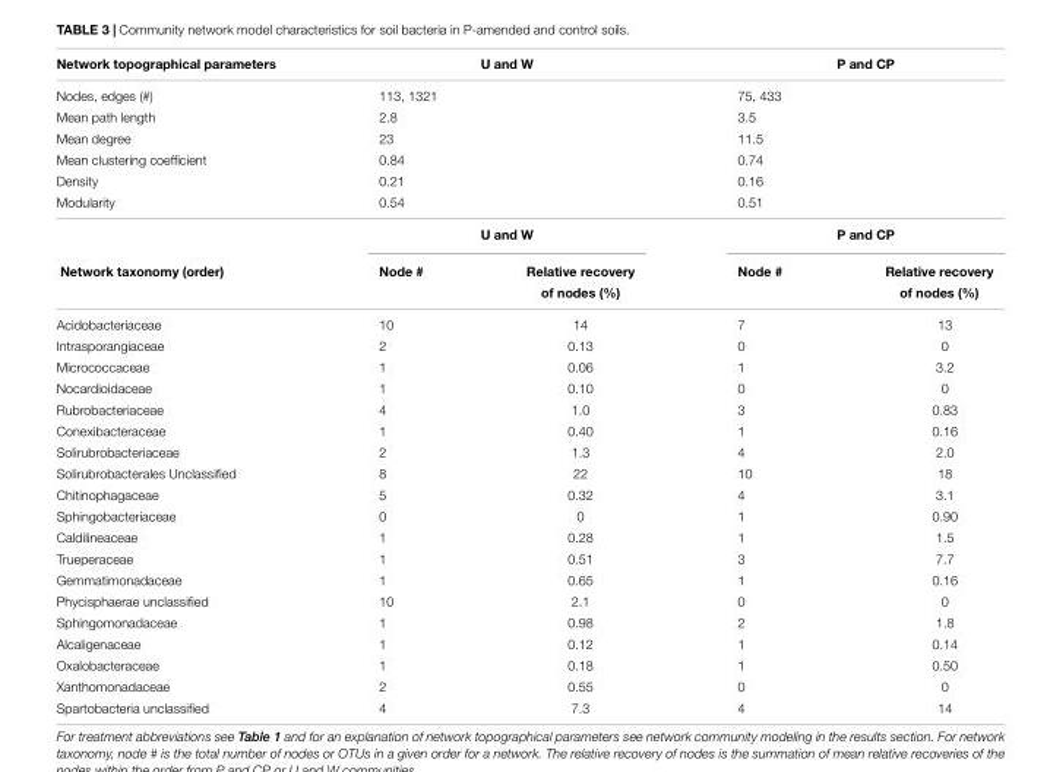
<table><thead><tr><td>Network topographical parameters</td><td colspan="2">U and W</td><td colspan="2">P and CP</td></tr></thead><tbody><tr><td>Nodes, edges (#)</td><td colspan="2">113, 1321</td><td colspan="2">75, 433</td></tr><tr><td>Mean path length</td><td colspan="2">2.8</td><td colspan="2">3.5</td></tr><tr><td>Mean degree</td><td colspan="2">23</td><td colspan="2">11.5</td></tr><tr><td>Mean clustering coefficient</td><td colspan="2">0.84</td><td colspan="2">0.74</td></tr><tr><td>Density</td><td colspan="2">0.21</td><td colspan="2">0.16</td></tr><tr><td rowspan="2">Modularity</td><td colspan="2">0.54</td><td colspan="2">0.51</td></tr><tr><td colspan="2">U and W</td><td colspan="2">P and CP</td></tr><tr><td>Network taxonomy (order)</td><td>Node #</td><td>Relative recovery of nodes (%)</td><td>Node #</td><td>Relative recovery of nodes (%)</td></tr><tr><td>Acidobacteriaceae</td><td>10</td><td>14</td><td>7</td><td>13</td></tr><tr><td>Intrasporangiaceae</td><td>2</td><td>0.13</td><td>0</td><td>0</td></tr><tr><td>Micrococcaceae</td><td>1</td><td>0.06</td><td>1</td><td>3.2</td></tr><tr><td>Nocardioidaceae</td><td>1</td><td>0.10</td><td>0</td><td>0</td></tr><tr><td>Rubrobacteriaceae</td><td>4</td><td>1.0</td><td>3</td><td>0.83</td></tr><tr><td>Conexibacteraceae</td><td>1</td><td>0.40</td><td>1</td><td>0.16</td></tr><tr><td>Solirubrobacteriaceae</td><td>2</td><td>1.3</td><td>4</td><td>2.0</td></tr><tr><td>Solirubrobacterales Unclassified</td><td>8</td><td>22</td><td>10</td><td>18</td></tr><tr><td>Chitinophagaceae</td><td>5</td><td>0.32</td><td>4</td><td>3.1</td></tr><tr><td>Sphingobacteriaceae</td><td>0</td><td>0</td><td>1</td><td>0.90</td></tr><tr><td>Caldilineaceae</td><td>1</td><td>0.28</td><td>1</td><td>1.5</td></tr><tr><td>Trueperaceae</td><td>1</td><td>0.51</td><td>3</td><td>7.7</td></tr><tr><td>Gemmatimonadaceae</td><td>1</td><td>0.65</td><td>1</td><td>0.16</td></tr><tr><td>Phycisphaerae unclassified</td><td>10</td><td>2.1</td><td>0</td><td>0</td></tr><tr><td>Sphingomonadaceae</td><td>1</td><td>0.98</td><td>2</td><td>1.8</td></tr><tr><td>Alcaligenaceae</td><td>1</td><td>0.12</td><td>1</td><td>0.14</td></tr><tr><td>Oxalobacteraceae</td><td>1</td><td>0.18</td><td>1</td><td>0.50</td></tr><tr><td>Xanthomonadaceae</td><td>2</td><td>0.55</td><td>0</td><td>0</td></tr><tr><td>Spartobacteria unclassified</td><td>4</td><td>7.3</td><td>4</td><td>14</td></tr></tbody></table>